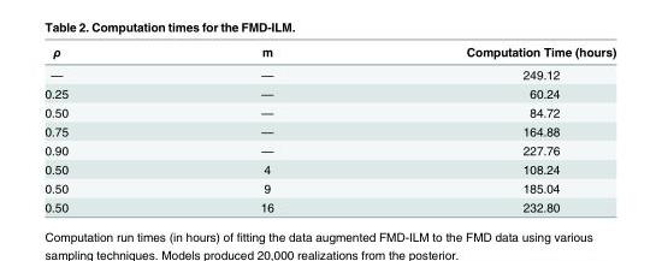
<table><thead><tr><td>ρ</td><td>m</td><td>Computation Time (hours)</td></tr></thead><tbody><tr><td>—</td><td>—</td><td>249.12</td></tr><tr><td>0.25</td><td>—</td><td>60.24</td></tr><tr><td>0.50</td><td>—</td><td>84.72</td></tr><tr><td>0.75</td><td>—</td><td>164.88</td></tr><tr><td>0.90</td><td>—</td><td>227.76</td></tr><tr><td>0.50</td><td>4</td><td>108.24</td></tr><tr><td>0.50</td><td>9</td><td>185.04</td></tr><tr><td>0.50</td><td>16</td><td>232.80</td></tr></tbody></table>